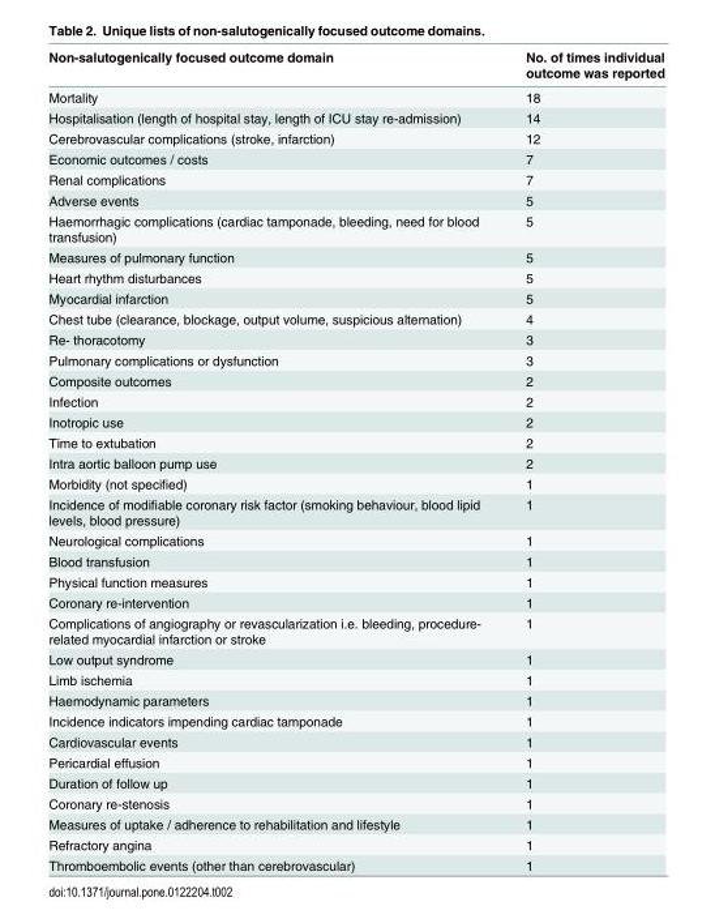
<table><thead><tr><td>Non-salutogenically focused outcome domain</td><td>No. of times individual outcome was reported</td></tr></thead><tbody><tr><td>Mortality</td><td>18</td></tr><tr><td>Hospitalisation (length of hospital stay, length of ICU stay re-admission)</td><td>14</td></tr><tr><td>Cerebrovascular complications (stroke, infarction)</td><td>12</td></tr><tr><td>Economic outcomes / costs</td><td>7</td></tr><tr><td>Renal complications</td><td>7</td></tr><tr><td>Adverse events</td><td>5</td></tr><tr><td>Haemorrhagic complications (cardiac tamponade, bleeding, need for blood transfusion)</td><td>5</td></tr><tr><td>Measures of pulmonary function</td><td>5</td></tr><tr><td>Heart rhythm disturbances</td><td>5</td></tr><tr><td>Myocardial infarction</td><td>5</td></tr><tr><td>Chest tube (clearance, blockage, output volume, suspicious alternation)</td><td>4</td></tr><tr><td>Re- thoracotomy</td><td>3</td></tr><tr><td>Pulmonary complications or dysfunction</td><td>3</td></tr><tr><td>Composite outcomes</td><td>2</td></tr><tr><td>Infection</td><td>2</td></tr><tr><td>Inotropic use</td><td>2</td></tr><tr><td>Time to extubation</td><td>2</td></tr><tr><td>Intra aortic balloon pump use</td><td>2</td></tr><tr><td>Morbidity (not specified)</td><td>1</td></tr><tr><td>Incidence of modifiable coronary risk factor (smoking behaviour, blood lipid levels, blood pressure)</td><td>1</td></tr><tr><td>Neurological complications</td><td>1</td></tr><tr><td>Blood transfusion</td><td>1</td></tr><tr><td>Physical function measures</td><td>1</td></tr><tr><td>Coronary re-intervention</td><td>1</td></tr><tr><td>Complications of angiography or revascularization i.e. bleeding, procedure- related myocardial infarction or stroke</td><td>1</td></tr><tr><td>Low output syndrome</td><td>1</td></tr><tr><td>Limb ischemia</td><td>1</td></tr><tr><td>Haemodynamic parameters</td><td>1</td></tr><tr><td>Incidence indicators impending cardiac tamponade</td><td>1</td></tr><tr><td>Cardiovascular events</td><td>1</td></tr><tr><td>Pericardial effusion</td><td>1</td></tr><tr><td>Duration of follow up</td><td>1</td></tr><tr><td>Coronary re-stenosis</td><td>1</td></tr><tr><td>Measures of uptake / adherence to rehabilitation and lifestyle</td><td>1</td></tr><tr><td>Refractory angina</td><td>1</td></tr><tr><td>Thromboembolic events (other than cerebrovascular)</td><td>1</td></tr></tbody></table>